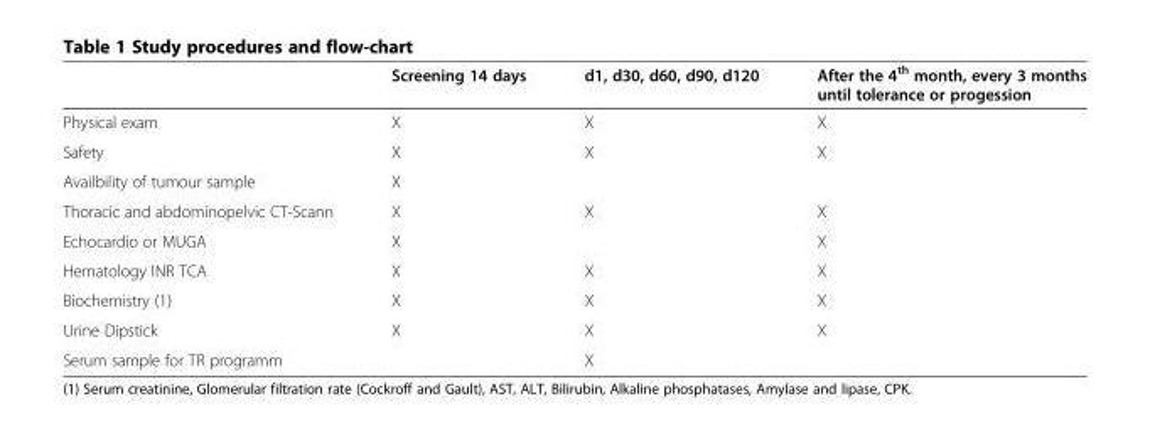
<table><thead><tr><td></td><td>Screening 14 days</td><td>d1, d30, d60, d90, d120</td><td>After the 4<sup>th</sup> month, every 3 months until tolerance or progession</td></tr></thead><tbody><tr><td>Physical exam</td><td>X</td><td>X</td><td>X</td></tr><tr><td>Safety</td><td>X</td><td>X</td><td>X</td></tr><tr><td>Availbility of tumour sample</td><td>X</td><td></td><td></td></tr><tr><td>Thoracic and abdominopelvic CT-Scann</td><td>X</td><td>X</td><td>X</td></tr><tr><td>Echocardio or MUGA</td><td>X</td><td></td><td>X</td></tr><tr><td>Hematology INR TCA</td><td>X</td><td>X</td><td>X</td></tr><tr><td>Biochemistry (1)</td><td>X</td><td>X</td><td>X</td></tr><tr><td>Urine Dipstick</td><td>X</td><td>X</td><td>X</td></tr><tr><td>Serum sample for TR programm</td><td></td><td>X</td><td></td></tr></tbody></table>